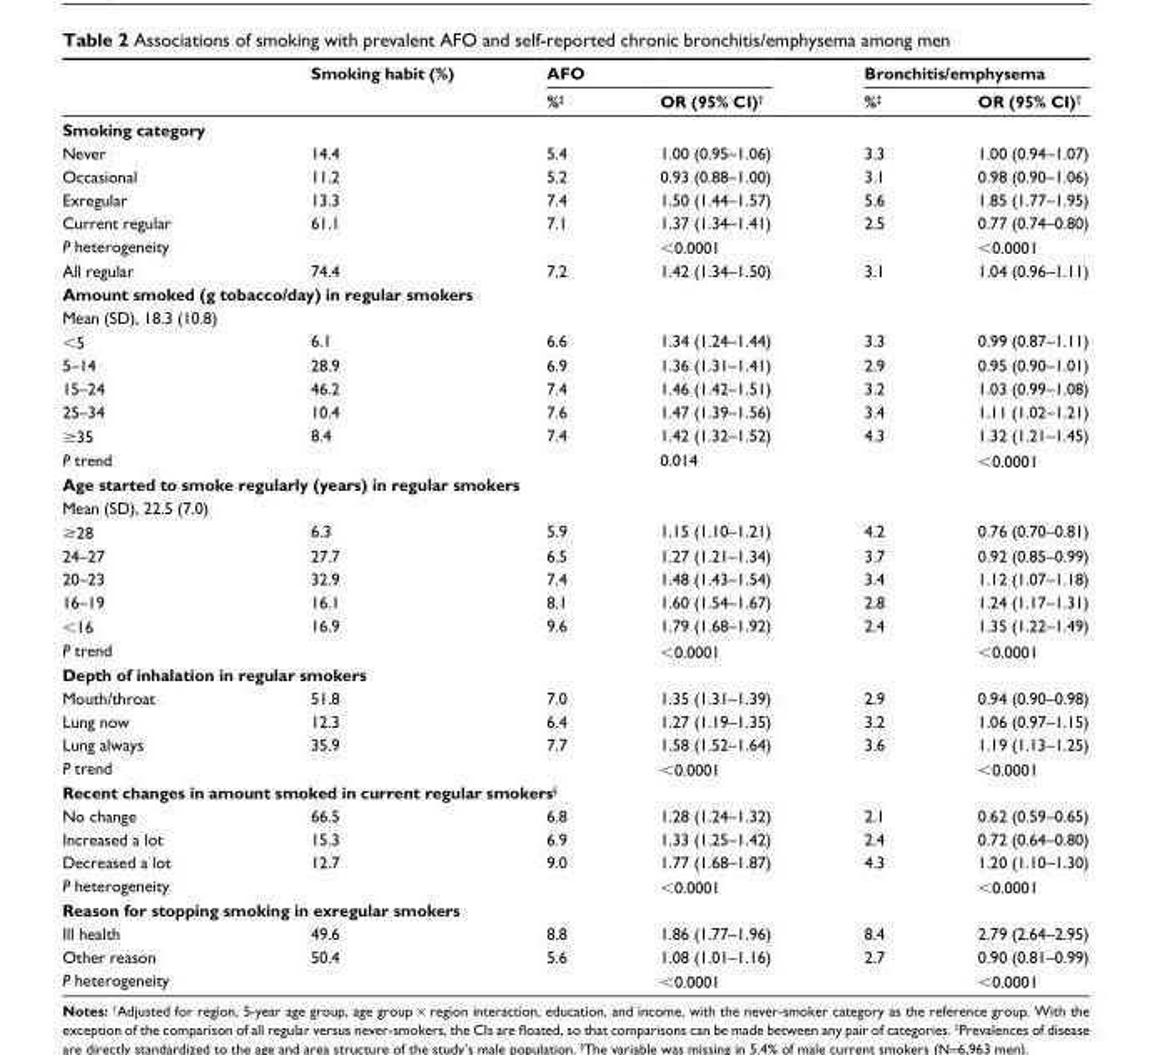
<table><thead><tr><td rowspan="2"></td><td rowspan="2">Smoking habit (%)</td><td colspan="2">AFO</td><td colspan="2">Bronchitis/emphysema</td></tr><tr><td>%‡</td><td>OR (95% CI)†</td><td>%‡</td><td>OR (95% CI)†</td></tr></thead><tbody><tr><td colspan="6">Smoking category</td></tr><tr><td>never</td><td>14.4</td><td>5.4</td><td>1.00 (0.95–1.06)</td><td>3.3</td><td>1.00 (0.94–1.07)</td></tr><tr><td>Occasional</td><td>11.2</td><td>5.2</td><td>0.93 (0.88–1.00)</td><td>3.1</td><td>0.98 (0.90–1.06)</td></tr><tr><td>exregular</td><td>13.3</td><td>7.4</td><td>1.50 (1.44–1.57)</td><td>5.6</td><td>1.85 (1.77–1.95)</td></tr><tr><td>Current regular</td><td>61.1</td><td>7.1</td><td>1.37 (1.34–1.41)</td><td>2.5</td><td>0.77 (0.74–0.80)</td></tr><tr><td>P heterogeneity</td><td></td><td></td><td>&lt;0.0001</td><td></td><td>&lt;0.0001</td></tr><tr><td>all regular</td><td>74.4</td><td>7.2</td><td>1.42 (1.34–1.50)</td><td>3.1</td><td>1.04 (0.96–1.11)</td></tr><tr><td colspan="6">Amount smoked (g tobacco/day) in regular smokers</td></tr><tr><td colspan="6">Mean (SD), 18.3 (10.8)</td></tr><tr><td>&lt;5</td><td>6.1</td><td>6.6</td><td>1.34 (1.24–1.44)</td><td>3.3</td><td>0.99 (0.87–1.11)</td></tr><tr><td>5–14</td><td>28.9</td><td>6.9</td><td>1.36 (1.31–1.41)</td><td>2.9</td><td>0.95 (0.90–1.01)</td></tr><tr><td>15–24</td><td>46.2</td><td>7.4</td><td>1.46 (1.42–1.51)</td><td>3.2</td><td>1.03 (0.99–1.08)</td></tr><tr><td>25–34</td><td>10.4</td><td>7.6</td><td>1.47 (1.39–1.56)</td><td>3.4</td><td>1.11 (1.02–1.21)</td></tr><tr><td>≥35</td><td>8.4</td><td>7.4</td><td>1.42 (1.32–1.52)</td><td>4.3</td><td>1.32 (1.21–1.45)</td></tr><tr><td>P trend</td><td></td><td></td><td>0.014</td><td></td><td>&lt;0.0001</td></tr><tr><td colspan="6">Age started to smoke regularly (years) in regular smokers</td></tr><tr><td colspan="6">Mean (SD), 22.5 (7.0)</td></tr><tr><td>≥28</td><td>6.3</td><td>5.9</td><td>1.15 (1.10–1.21)</td><td>4.2</td><td>0.76 (0.70–0.81)</td></tr><tr><td>24–27</td><td>27.7</td><td>6.5</td><td>1.27 (1.21–1.34)</td><td>3.7</td><td>0.92 (0.85–0.99)</td></tr><tr><td>20–23</td><td>32.9</td><td>7.4</td><td>1.48 (1.43–1.54)</td><td>3.4</td><td>1.12 (1.07–1.18)</td></tr><tr><td>16–19</td><td>16.1</td><td>8.1</td><td>1.60 (1.54–1.67)</td><td>2.8</td><td>1.24 (1.17–1.31)</td></tr><tr><td>&lt;16</td><td>16.9</td><td>9.6</td><td>1.79 (1.68–1.92)</td><td>2.4</td><td>1.35 (1.22–1.49)</td></tr><tr><td>P trend</td><td></td><td></td><td>&lt;0.0001</td><td></td><td>&lt;0.0001</td></tr><tr><td colspan="6">Depth of inhalation in regular smokers</td></tr><tr><td>Mouth/throat</td><td>51.8</td><td>7.0</td><td>1.35 (1.31–1.39)</td><td>2.9</td><td>0.94 (0.90–0.98)</td></tr><tr><td>lung now</td><td>12.3</td><td>6.4</td><td>1.27 (1.19–1.35)</td><td>3.2</td><td>1.06 (0.97–1.15)</td></tr><tr><td>lung always</td><td>35.9</td><td>7.7</td><td>1.58 (1.52–1.64)</td><td>3.6</td><td>1.19 (1.13–1.25)</td></tr><tr><td>P trend</td><td></td><td></td><td>&lt;0.0001</td><td></td><td>&lt;0.0001</td></tr><tr><td colspan="6">Recent changes in amount smoked in current regular smokers§</td></tr><tr><td>no change</td><td>66.5</td><td>6.8</td><td>1.28 (1.24–1.32)</td><td>2.1</td><td>0.62 (0.59–0.65)</td></tr><tr><td>Increased a lot</td><td>15.3</td><td>6.9</td><td>1.33 (1.25–1.42)</td><td>2.4</td><td>0.72 (0.64–0.80)</td></tr><tr><td>Decreased a lot</td><td>12.7</td><td>9.0</td><td>1.77 (1.68–1.87)</td><td>4.3</td><td>1.20 (1.10–1.30)</td></tr><tr><td>P heterogeneity</td><td></td><td></td><td>&lt;0.0001</td><td></td><td>&lt;0.0001</td></tr><tr><td colspan="6">Reason for stopping smoking in exregular smokers</td></tr><tr><td>Ill health</td><td>49.6</td><td>8.8</td><td>1.86 (1.77–1.96)</td><td>8.4</td><td>2.79 (2.64–2.95)</td></tr><tr><td>Other reason</td><td>50.4</td><td>5.6</td><td>1.08 (1.01–1.16)</td><td>2.7</td><td>0.90 (0.81–0.99)</td></tr><tr><td>P heterogeneity</td><td></td><td></td><td>&lt;0.0001</td><td></td><td>&lt;0.0001</td></tr></tbody></table>